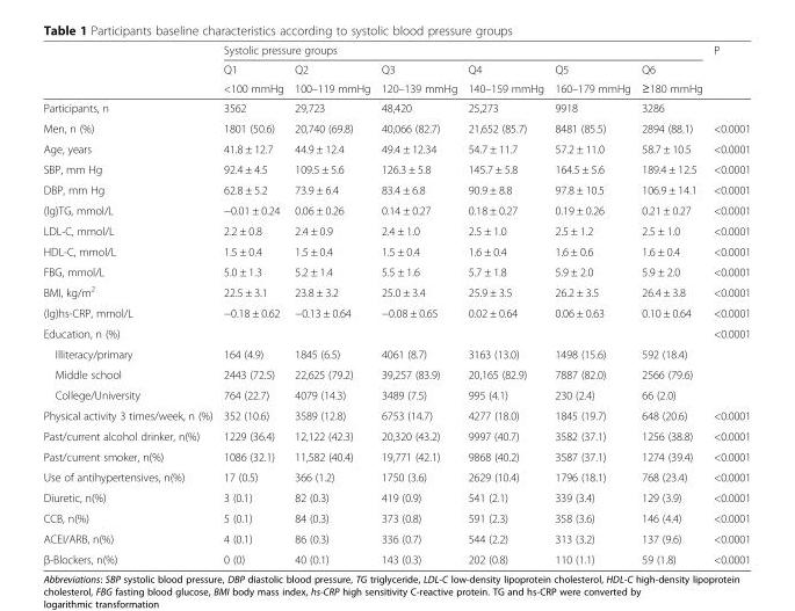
<table><thead><tr><td rowspan="3"></td><td colspan="6">Systolic pressure groups</td><td rowspan="3">P</td></tr><tr><td rowspan="2">Q1 &lt;100 mmHg</td><td rowspan="2">Q2 100–119 mmHg</td><td rowspan="2">Q3 120–139 mmHg</td><td rowspan="2">Q4 140–159 mmHg</td><td rowspan="2">Q5 160–179 mmHg</td><td rowspan="2">Q6 ≥180 mmHg</td></tr><tr></tr></thead><tbody><tr><td>Participants, n</td><td>3562</td><td>29,723</td><td>48,420</td><td>25,273</td><td>9918</td><td>3286</td><td></td></tr><tr><td>Men, n (%)</td><td>1801 (50.6)</td><td>20,740 (69.8)</td><td>40,066 (82.7)</td><td>21,652 (85.7)</td><td>8481 (85.5)</td><td>2894 (88.1)</td><td>&lt;0.0001</td></tr><tr><td>Age, years</td><td>41.8 ± 12.7</td><td>44.9 ± 12.4</td><td>49.4 ± 12.34</td><td>54.7 ± 11.7</td><td>57.2 ± 11.0</td><td>58.7 ± 10.5</td><td>&lt;0.0001</td></tr><tr><td>SBP, mm Hg</td><td>92.4 ± 4.5</td><td>109.5 ± 5.6</td><td>126.3 ± 5.8</td><td>145.7 ± 5.8</td><td>164.5 ± 5.6</td><td>189.4 ± 12.5</td><td>&lt;0.0001</td></tr><tr><td>DBP, mm Hg</td><td>62.8 ± 5.2</td><td>73.9 ± 6.4</td><td>83.4 ± 6.8</td><td>90.9 ± 8.8</td><td>97.8 ± 10.5</td><td>106.9 ± 14.1</td><td>&lt;0.0001</td></tr><tr><td>(lg)TG, mmol/L</td><td>−0.01 ± 0.24</td><td>0.06 ± 0.26</td><td>0.14 ± 0.27</td><td>0.18 ± 0.27</td><td>0.19 ± 0.26</td><td>0.21 ± 0.27</td><td>&lt;0.0001</td></tr><tr><td>LDL-C, mmol/L</td><td>2.2 ± 0.8</td><td>2.4 ± 0.9</td><td>2.4 ± 1.0</td><td>2.5 ± 1.0</td><td>2.5 ± 1.2</td><td>2.5 ± 1.0</td><td>&lt;0.0001</td></tr><tr><td>HDL-C, mmol/L</td><td>1.5 ± 0.4</td><td>1.5 ± 0.4</td><td>1.5 ± 0.4</td><td>1.6 ± 0.4</td><td>1.6 ± 0.6</td><td>1.6 ± 0.4</td><td>&lt;0.0001</td></tr><tr><td>FBG, mmol/L</td><td>5.0 ± 1.3</td><td>5.2 ± 1.4</td><td>5.5 ± 1.6</td><td>5.7 ± 1.8</td><td>5.9 ± 2.0</td><td>5.9 ± 2.0</td><td>&lt;0.0001</td></tr><tr><td>BMI, kg/m<sup>2</sup></td><td>22.5 ± 3.1</td><td>23.8 ± 3.2</td><td>25.0 ± 3.4</td><td>25.9 ± 3.5</td><td>26.2 ± 3.5</td><td>26.4 ± 3.8</td><td>&lt;0.0001</td></tr><tr><td>(lg)hs-CRP, mmol/L</td><td>−0.18 ± 0.62</td><td>−0.13 ± 0.64</td><td>−0.08 ± 0.65</td><td>0.02 ± 0.64</td><td>0.06 ± 0.63</td><td>0.10 ± 0.64</td><td>&lt;0.0001</td></tr><tr><td>Education, n (%)</td><td></td><td></td><td></td><td></td><td></td><td></td><td>&lt;0.0001</td></tr><tr><td>Illiteracy/primary</td><td>164 (4.9)</td><td>1845 (6.5)</td><td>4061 (8.7)</td><td>3163 (13.0)</td><td>1498 (15.6)</td><td>592 (18.4)</td><td></td></tr><tr><td>Middle school</td><td>2443 (72.5)</td><td>22,625 (79.2)</td><td>39,257 (83.9)</td><td>20,165 (82.9)</td><td>7887 (82.0)</td><td>2566 (79.6)</td><td></td></tr><tr><td>College/University</td><td>764 (22.7)</td><td>4079 (14.3)</td><td>3489 (7.5)</td><td>995 (4.1)</td><td>230 (2.4)</td><td>66 (2.0)</td><td></td></tr><tr><td>Physical activity 3 times/week, n (%)</td><td>352 (10.6)</td><td>3589 (12.8)</td><td>6753 (14.7)</td><td>4277 (18.0)</td><td>1845 (19.7)</td><td>648 (20.6)</td><td>&lt;0.0001</td></tr><tr><td>Past/current alcohol drinker, n(%)</td><td>1229 (36.4)</td><td>12,122 (42.3)</td><td>20,320 (43.2)</td><td>9997 (40.7)</td><td>3582 (37.1)</td><td>1256 (38.8)</td><td>&lt;0.0001</td></tr><tr><td>Past/current smoker, n(%)</td><td>1086 (32.1)</td><td>11,582 (40.4)</td><td>19,771 (42.1)</td><td>9868 (40.2)</td><td>3587 (37.1)</td><td>1274 (39.4)</td><td>&lt;0.0001</td></tr><tr><td>Use of antihypertensives, n(%)</td><td>17 (0.5)</td><td>366 (1.2)</td><td>1750 (3.6)</td><td>2629 (10.4)</td><td>1796 (18.1)</td><td>768 (23.4)</td><td>&lt;0.0001</td></tr><tr><td>Diuretic, n(%)</td><td>3 (0.1)</td><td>82 (0.3)</td><td>419 (0.9)</td><td>541 (2.1)</td><td>339 (3.4)</td><td>129 (3.9)</td><td>&lt;0.0001</td></tr><tr><td>CCB, n(%)</td><td>5 (0.1)</td><td>84 (0.3)</td><td>373 (0.8)</td><td>591 (2.3)</td><td>358 (3.6)</td><td>146 (4.4)</td><td>&lt;0.0001</td></tr><tr><td>ACEI/ARB, n(%)</td><td>4 (0.1)</td><td>86 (0.3)</td><td>336 (0.7)</td><td>544 (2.2)</td><td>313 (3.2)</td><td>137 (9.6)</td><td>&lt;0.0001</td></tr><tr><td>β-Blockers, n(%)</td><td>0 (0)</td><td>40 (0.1)</td><td>143 (0.3)</td><td>202 (0.8)</td><td>110 (1.1)</td><td>59 (1.8)</td><td>&lt;0.0001</td></tr></tbody></table>